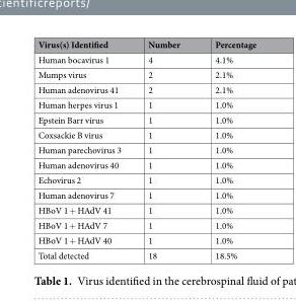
<table><thead><tr><td>Virus(s) Identified</td><td>Number</td><td>Percentage</td></tr></thead><tbody><tr><td>Human bocavirus 1</td><td>4</td><td>4.1%</td></tr><tr><td>Mumps virus</td><td>2</td><td>2.1%</td></tr><tr><td>Human adenovirus 41</td><td>2</td><td>2.1%</td></tr><tr><td>Human herpes virus 1</td><td>1</td><td>1.0%</td></tr><tr><td>Epstein Barr virus</td><td>1</td><td>1.0%</td></tr><tr><td>Coxsackie B virus</td><td>1</td><td>1.0%</td></tr><tr><td>Human parechovirus 3</td><td>1</td><td>1.0%</td></tr><tr><td>Human adenovirus 40</td><td>1</td><td>1.0%</td></tr><tr><td>Echovirus 2</td><td>1</td><td>1.0%</td></tr><tr><td>Human adenovirus 7</td><td>1</td><td>1.0%</td></tr><tr><td>HBoV 1 + HAdV 41</td><td>1</td><td>1.0%</td></tr><tr><td>HBoV 1 + HAdV 7</td><td>1</td><td>1.0%</td></tr><tr><td>HBoV 1 + HAdV 40</td><td>1</td><td>1.0%</td></tr><tr><td>Total detected</td><td>18</td><td>18.5%</td></tr></tbody></table>